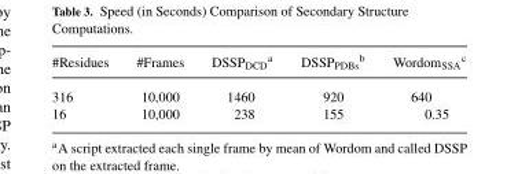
<table><thead><tr><td>#Residues</td><td>#Frames</td><td>DSSP<sub>DCD</sub><sup>a</sup></td><td>DSSP<sub>PDBs</sub><sup>b</sup></td><td>Wordom<sub>SSA</sub><sup>c</sup></td></tr></thead><tbody><tr><td>316</td><td>10,000</td><td>1460</td><td>920</td><td>640</td></tr><tr><td>16</td><td>10,000</td><td>238</td><td>155</td><td>0.35</td></tr></tbody></table>